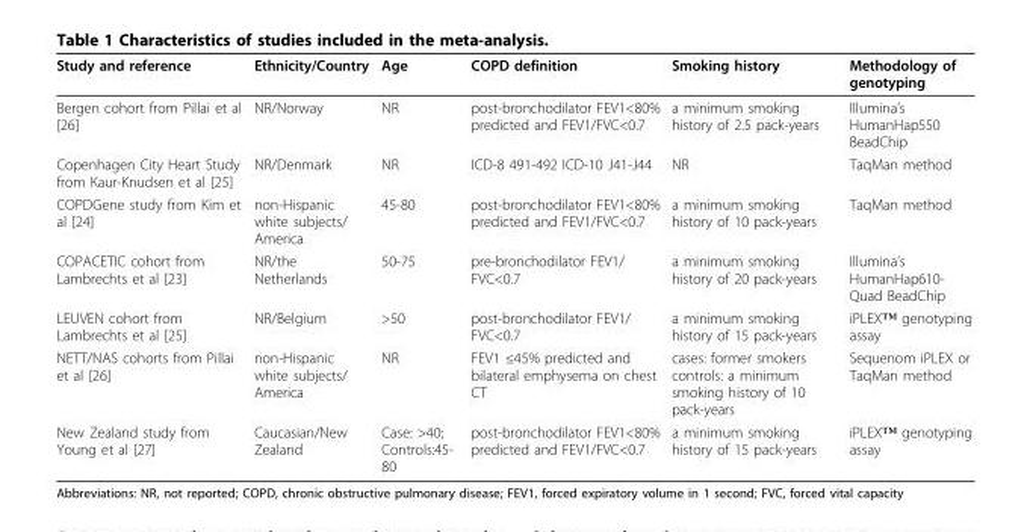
<table><thead><tr><td>Study and reference</td><td>Ethnicity/Country</td><td>Age</td><td>COPD definition</td><td>Smoking history</td><td>Methodology of genotyping</td></tr></thead><tbody><tr><td>Bergen cohort from Pillai et al [26]</td><td>NR/Norway</td><td>NR</td><td>post-bronchodilator FEV1&lt;80% predicted and FEV1/FVC&lt;0.7</td><td>a minimum smoking history of 2.5 pack-years</td><td>Illumina’s HumanHap550 BeadChip</td></tr><tr><td>Copenhagen City Heart Study from Kaur-Knudsen et al [25]</td><td>NR/Denmark</td><td>NR</td><td>ICD-8 491-492 ICD-10 J41-J44</td><td>NR</td><td>TaqMan method</td></tr><tr><td>COPDGene study from Kim et al [24]</td><td>non-Hispanic white subjects/ America</td><td>45-80</td><td>post-bronchodilator FEV1&lt;80% predicted and FEV1/FVC&lt;0.7</td><td>a minimum smoking history of 10 pack-years</td><td>TaqMan method</td></tr><tr><td>COPACETIC cohort from Lambrechts et al [23]</td><td>NR/the Netherlands</td><td>50-75</td><td>pre-bronchodilator FEV1/ FVC&lt;0.7</td><td>a minimum smoking history of 20 pack-years</td><td>Illumina’s HumanHap610- Quad BeadChip</td></tr><tr><td>LEUVEN cohort from Lambrechts et al [25]</td><td>NR/Belgium</td><td>&gt;50</td><td>post-bronchodilator FEV1/ FVC&lt;0.7</td><td>a minimum smoking history of 15 pack-years</td><td>iPLEX™ genotyping assay</td></tr><tr><td>NETT/NAS cohorts from Pillai et al [26]</td><td>non-Hispanic white subjects/ America</td><td>NR</td><td>FEV1 ≤45% predicted and bilateral emphysema on chest CT</td><td>cases: former smokers controls: a minimum smoking history of 10 pack-years</td><td>Sequenom iPLEX or TaqMan method</td></tr><tr><td>New Zealand study from Young et al [27]</td><td>Caucasian/New Zealand</td><td>Case: &gt;40; Controls:45- 80</td><td>post-bronchodilator FEV1&lt;80% predicted and FEV1/FVC&lt;0.7</td><td>a minimum smoking history of 15 pack-years</td><td>iPLEX™ genotyping assay</td></tr></tbody></table>